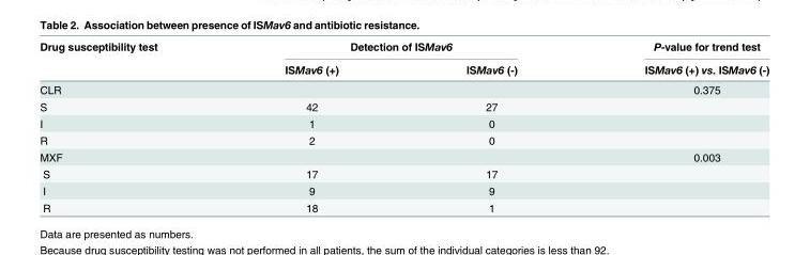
<table><thead><tr><td rowspan="2">Drug susceptibility test</td><td colspan="2">Detection of ISMav6</td><td rowspan="2">P-value for trend test ISMav6 (+) vs. ISMav6 (-)</td></tr><tr><td>ISMav6 (+)</td><td>ISMav6 (-)</td></tr></thead><tbody><tr><td>CLR</td><td></td><td></td><td>0.375</td></tr><tr><td>S</td><td>42</td><td>27</td><td></td></tr><tr><td>I</td><td>1</td><td>0</td><td></td></tr><tr><td>R</td><td>2</td><td>0</td><td></td></tr><tr><td>MXF</td><td></td><td></td><td>0.003</td></tr><tr><td>S</td><td>17</td><td>17</td><td></td></tr><tr><td>I</td><td>9</td><td>9</td><td></td></tr><tr><td>R</td><td>18</td><td>1</td><td></td></tr></tbody></table>